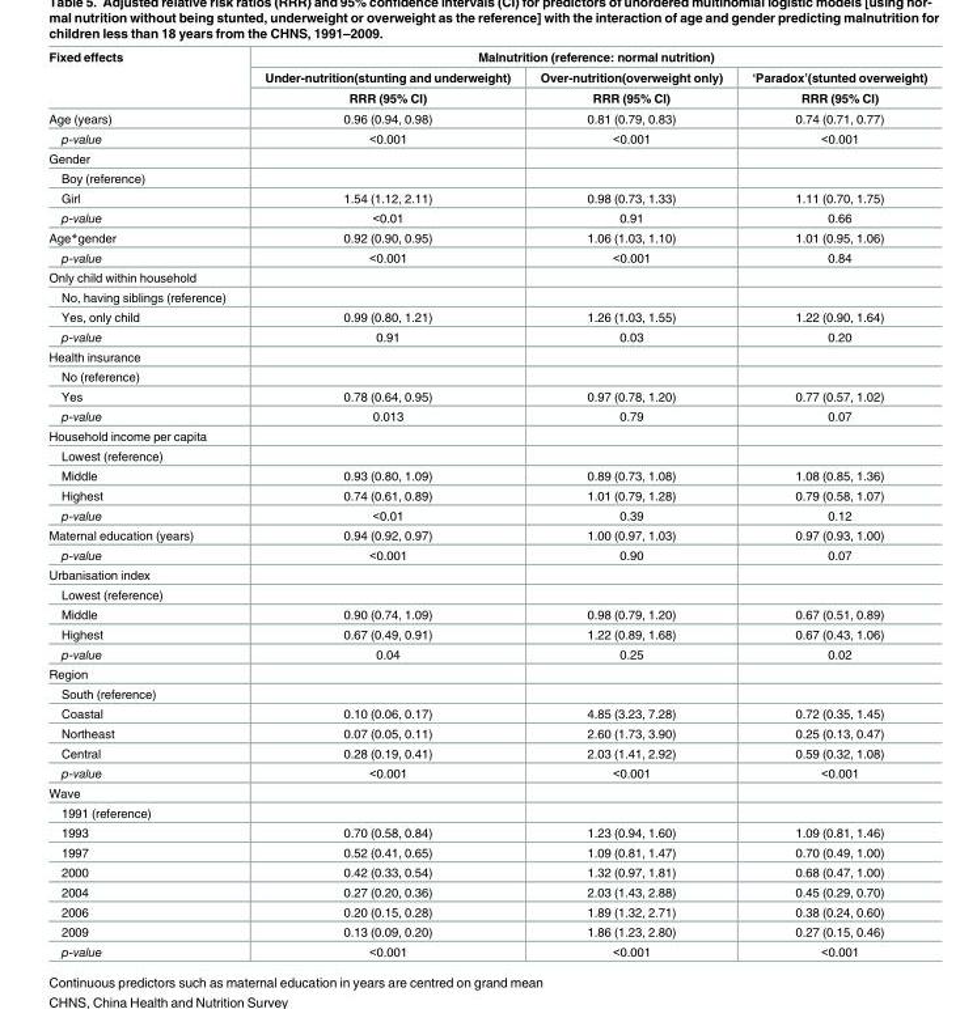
<table><thead><tr><td rowspan="3">Fixed effects</td><td colspan="3">Malnutrition (reference: normal nutrition)</td></tr><tr><td rowspan="2">Under-nutrition(stunting and underweight) RRR (95% CI)</td><td rowspan="2">Over-nutrition(overweight only) RRR (95% CI)</td><td rowspan="2">‘Paradox’(stunted overweight) RRR (95% CI)</td></tr><tr></tr></thead><tbody><tr><td>Age (years)</td><td>0.96 (0.94, 0.98)</td><td>0.81 (0.79, 0.83)</td><td>0.74 (0.71, 0.77)</td></tr><tr><td>p-value</td><td>&lt;0.001</td><td>&lt;0.001</td><td>&lt;0.001</td></tr><tr><td colspan="4">Gender</td></tr><tr><td colspan="4">Boy (reference)</td></tr><tr><td>Girl</td><td>1.54 (1.12, 2.11)</td><td>0.98 (0.73, 1.33)</td><td>1.11 (0.70, 1.75)</td></tr><tr><td>p-value</td><td>&lt;0.01</td><td>0.91</td><td>0.66</td></tr><tr><td>Age*gender</td><td>0.92 (0.90, 0.95)</td><td>1.06 (1.03, 1.10)</td><td>1.01 (0.95, 1.06)</td></tr><tr><td>p-value</td><td>&lt;0.001</td><td>&lt;0.001</td><td>0.84</td></tr><tr><td colspan="4">Only child within household</td></tr><tr><td colspan="4">No, having siblings (reference)</td></tr><tr><td>Yes, only child</td><td>0.99 (0.80, 1.21)</td><td>1.26 (1.03, 1.55)</td><td>1.22 (0.90, 1.64)</td></tr><tr><td>p-value</td><td>0.91</td><td>0.03</td><td>0.20</td></tr><tr><td colspan="4">Health insurance</td></tr><tr><td colspan="4">No (reference)</td></tr><tr><td>Yes</td><td>0.78 (0.64, 0.95)</td><td>0.97 (0.78, 1.20)</td><td>0.77 (0.57, 1.02)</td></tr><tr><td>p-value</td><td>0.013</td><td>0.79</td><td>0.07</td></tr><tr><td colspan="4">Household income per capita</td></tr><tr><td colspan="4">Lowest (reference)</td></tr><tr><td>Middle</td><td>0.93 (0.80, 1.09)</td><td>0.89 (0.73, 1.08)</td><td>1.08 (0.85, 1.36)</td></tr><tr><td>Highest</td><td>0.74 (0.61, 0.89)</td><td>1.01 (0.79, 1.28)</td><td>0.79 (0.58, 1.07)</td></tr><tr><td>p-value</td><td>&lt;0.01</td><td>0.39</td><td>0.12</td></tr><tr><td>Maternal education (years)</td><td>0.94 (0.92, 0.97)</td><td>1.00 (0.97, 1.03)</td><td>0.97 (0.93, 1.00)</td></tr><tr><td>p-value</td><td>&lt;0.001</td><td>0.90</td><td>0.07</td></tr><tr><td colspan="4">Urbanisation index</td></tr><tr><td colspan="4">Lowest (reference)</td></tr><tr><td>Middle</td><td>0.90 (0.74, 1.09)</td><td>0.98 (0.79, 1.20)</td><td>0.67 (0.51, 0.89)</td></tr><tr><td>Highest</td><td>0.67 (0.49, 0.91)</td><td>1.22 (0.89, 1.68)</td><td>0.67 (0.43, 1.06)</td></tr><tr><td>p-value</td><td>0.04</td><td>0.25</td><td>0.02</td></tr><tr><td colspan="4">Region</td></tr><tr><td colspan="4">South (reference)</td></tr><tr><td>Coastal</td><td>0.10 (0.06, 0.17)</td><td>4.85 (3.23, 7.28)</td><td>0.72 (0.35, 1.45)</td></tr><tr><td>Northeast</td><td>0.07 (0.05, 0.11)</td><td>2.60 (1.73, 3.90)</td><td>0.25 (0.13, 0.47)</td></tr><tr><td>Central</td><td>0.28 (0.19, 0.41)</td><td>2.03 (1.41, 2.92)</td><td>0.59 (0.32, 1.08)</td></tr><tr><td>p-value</td><td>&lt;0.001</td><td>&lt;0.001</td><td>&lt;0.001</td></tr><tr><td colspan="4">Wave</td></tr><tr><td colspan="4">1991 (reference)</td></tr><tr><td>1993</td><td>0.70 (0.58, 0.84)</td><td>1.23 (0.94, 1.60)</td><td>1.09 (0.81, 1.46)</td></tr><tr><td>1997</td><td>0.52 (0.41, 0.65)</td><td>1.09 (0.81, 1.47)</td><td>0.70 (0.49, 1.00)</td></tr><tr><td>2000</td><td>0.42 (0.33, 0.54)</td><td>1.32 (0.97, 1.81)</td><td>0.68 (0.47, 1.00)</td></tr><tr><td>2004</td><td>0.27 (0.20, 0.36)</td><td>2.03 (1.43, 2.88)</td><td>0.45 (0.29, 0.70)</td></tr><tr><td>2006</td><td>0.20 (0.15, 0.28)</td><td>1.89 (1.32, 2.71)</td><td>0.38 (0.24, 0.60)</td></tr><tr><td>2009</td><td>0.13 (0.09, 0.20)</td><td>1.86 (1.23, 2.80)</td><td>0.27 (0.15, 0.46)</td></tr><tr><td>p-value</td><td>&lt;0.001</td><td>&lt;0.001</td><td>&lt;0.001</td></tr></tbody></table>